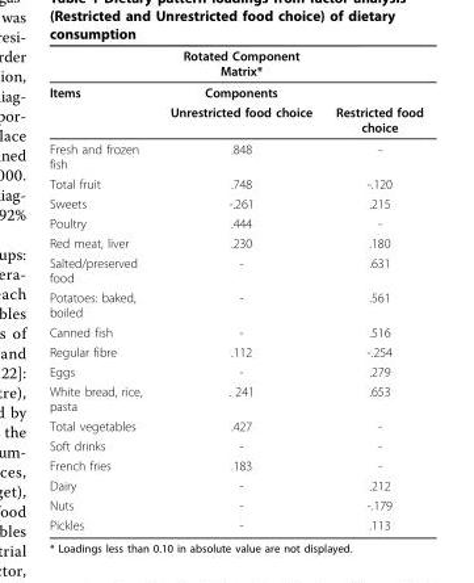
<table><thead><tr><td></td><td>Rotated Component Matrix*</td><td></td></tr></thead><tbody><tr><td rowspan="2">Items</td><td>Components</td><td></td></tr><tr><td>Unrestricted food choice</td><td>Restricted food choice</td></tr><tr><td>Fresh and frozen fish</td><td>.848</td><td>-</td></tr><tr><td>Total fruit</td><td>.748</td><td>-.120</td></tr><tr><td>Sweets</td><td>-.261</td><td>.215</td></tr><tr><td>Poultry</td><td>.444</td><td>-</td></tr><tr><td>Red meat, liver</td><td>.230</td><td>.180</td></tr><tr><td>Salted/preserved food</td><td>-</td><td>.631</td></tr><tr><td>Potatoes: baked, boiled</td><td>-</td><td>.561</td></tr><tr><td>Canned fish</td><td>-</td><td>.516</td></tr><tr><td>Regular fibre</td><td>.112</td><td>-.254</td></tr><tr><td>Eggs</td><td>-</td><td>.279</td></tr><tr><td>White bread, rice, pasta</td><td>. 241</td><td>.653</td></tr><tr><td>Total vegetables</td><td>.427</td><td>-</td></tr><tr><td>Soft drinks</td><td>-</td><td>-</td></tr><tr><td>French fries</td><td>.183</td><td>-</td></tr><tr><td>Dairy</td><td>-</td><td>.212</td></tr><tr><td>Nuts</td><td>-</td><td>-.179</td></tr><tr><td>Pickles</td><td>-</td><td>.113</td></tr></tbody></table>